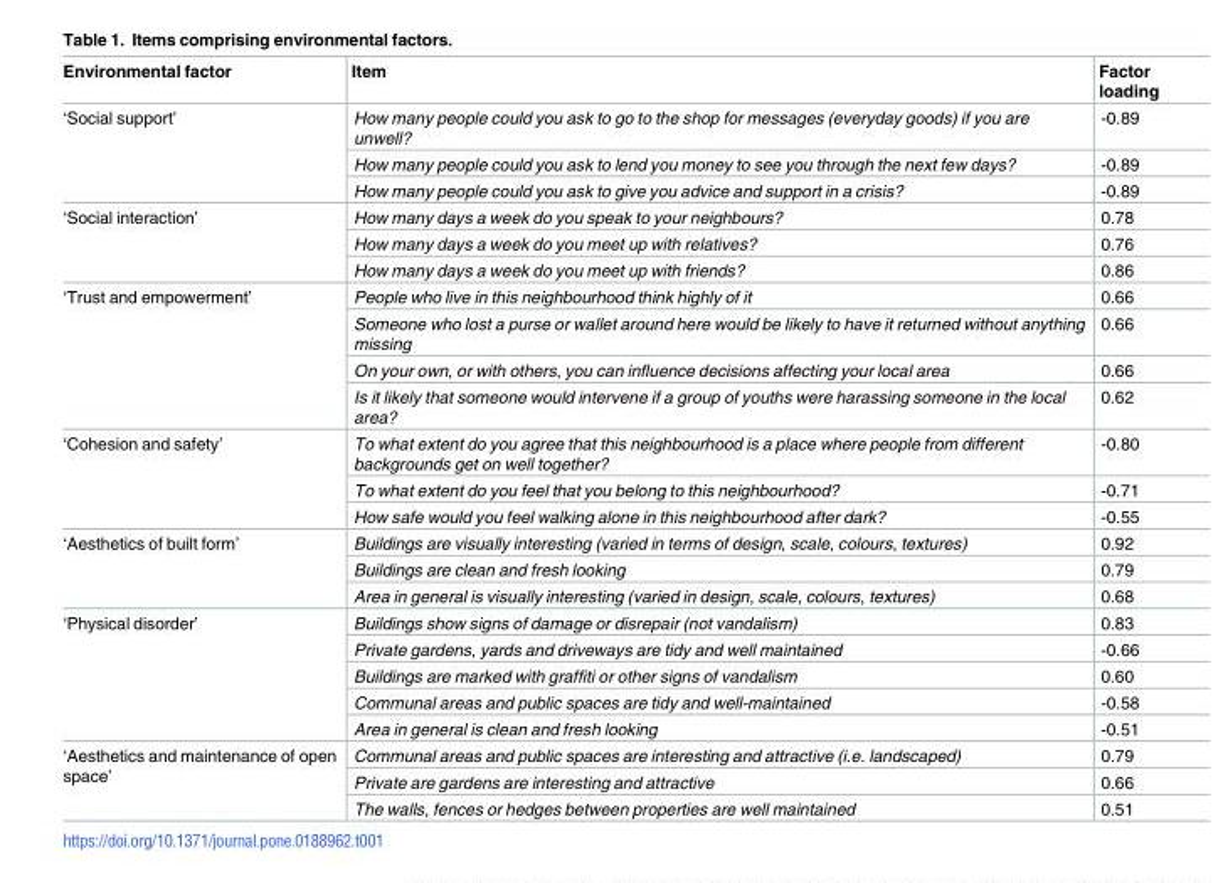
<table><thead><tr><td>Environmental factor</td><td>Item</td><td>Factor loading</td></tr></thead><tbody><tr><td rowspan="3">‘Social support’</td><td>How many people could you ask to go to the shop for messages (everyday goods) if you are unwell?</td><td>-0.89</td></tr><tr><td>How many people could you ask to lend you money to see you through the next few days?</td><td>-0.89</td></tr><tr><td>How many people could you ask to give you advice and support in a crisis?</td><td>-0.89</td></tr><tr><td rowspan="3">‘Social interaction’</td><td>How many days a week do you speak to your neighbours?</td><td>0.78</td></tr><tr><td>How many days a week do you meet up with relatives?</td><td>0.76</td></tr><tr><td>How many days a week do you meet up with friends?</td><td>0.86</td></tr><tr><td rowspan="4">‘Trust and empowerment’</td><td>People who live in this neighbourhood think highly of it</td><td>0.66</td></tr><tr><td>Someone who lost a purse or wallet around here would be likely to have it returned without anything missing</td><td>0.66</td></tr><tr><td>On your own, or with others, you can influence decisions affecting your local area</td><td>0.66</td></tr><tr><td>Is it likely that someone would intervene if a group of youths were harassing someone in the local area?</td><td>0.62</td></tr><tr><td rowspan="3">‘Cohesion and safety’</td><td>To what extent do you agree that this neighbourhood is a place where people from different backgrounds get on well together?</td><td>-0.80</td></tr><tr><td>To what extent do you feel that you belong to this neighbourhood?</td><td>-0.71</td></tr><tr><td>How safe would you feel walking alone in this neighbourhood after dark?</td><td>-0.55</td></tr><tr><td rowspan="3">‘Aesthetics of built form’</td><td>Buildings are visually interesting (varied in terms of design, scale, colours, textures)</td><td>0.92</td></tr><tr><td>Buildings are clean and fresh looking</td><td>0.79</td></tr><tr><td>Area in general is visually interesting (varied in design, scale, colours, textures)</td><td>0.68</td></tr><tr><td rowspan="5">‘Physical disorder’</td><td>Buildings show signs of damage or disrepair (not vandalism)</td><td>0.83</td></tr><tr><td>Private gardens, yards and driveways are tidy and well maintained</td><td>-0.66</td></tr><tr><td>Buildings are marked with graffiti or other signs of vandalism</td><td>0.60</td></tr><tr><td>Communal areas and public spaces are tidy and well-maintained</td><td>-0.58</td></tr><tr><td>Area in general is clean and fresh looking</td><td>-0.51</td></tr><tr><td rowspan="3">‘Aesthetics and maintenance of open space’</td><td>Communal areas and public spaces are interesting and attractive (i.e. landscaped)</td><td>0.79</td></tr><tr><td>Private are gardens are interesting and attractive</td><td>0.66</td></tr><tr><td>The walls, fences or hedges between properties are well maintained</td><td>0.51</td></tr></tbody></table>